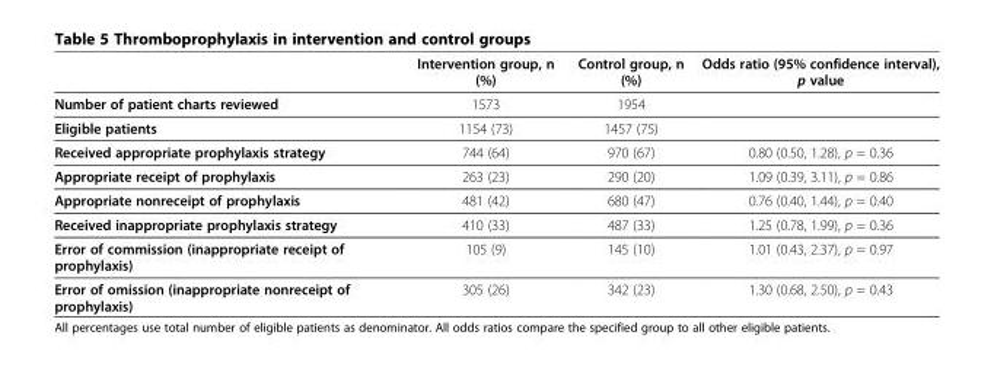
<table><thead><tr><td></td><td>Intervention group, n (%)</td><td>Control group, n (%)</td><td>Odds ratio (95% confidence interval), p value</td></tr></thead><tbody><tr><td>Number of patient charts reviewed</td><td>1573</td><td>1954</td><td></td></tr><tr><td>Eligible patients</td><td>1154 (73)</td><td>1457 (75)</td><td></td></tr><tr><td>Received appropriate prophylaxis strategy</td><td>744 (64)</td><td>970 (67)</td><td>0.80 (0.50, 1.28), p = 0.36</td></tr><tr><td>Appropriate receipt of prophylaxis</td><td>263 (23)</td><td>290 (20)</td><td>1.09 (0.39, 3.11), p = 0.86</td></tr><tr><td>Appropriate nonreceipt of prophylaxis</td><td>481 (42)</td><td>680 (47)</td><td>0.76 (0.40, 1.44), p = 0.40</td></tr><tr><td>Received inappropriate prophylaxis strategy</td><td>410 (33)</td><td>487 (33)</td><td>1.25 (0.78, 1.99), p = 0.36</td></tr><tr><td>Error of commission (inappropriate receipt of prophylaxis)</td><td>105 (9)</td><td>145 (10)</td><td>1.01 (0.43, 2.37), p = 0.97</td></tr><tr><td>Error of omission (inappropriate nonreceipt of prophylaxis)</td><td>305 (26)</td><td>342 (23)</td><td>1.30 (0.68, 2.50), p = 0.43</td></tr></tbody></table>